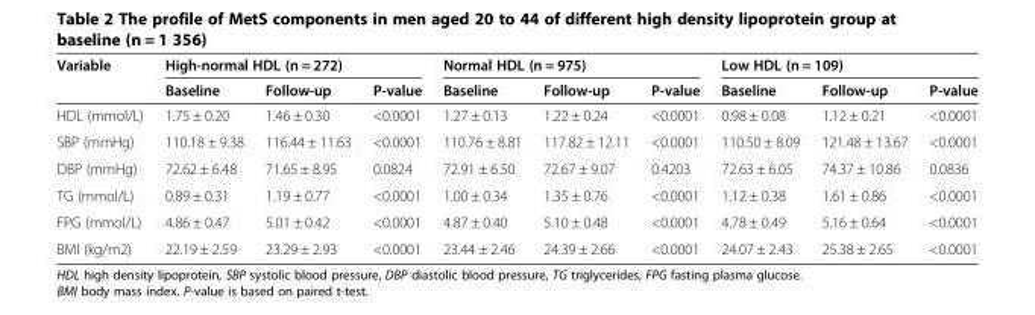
<table><thead><tr><td rowspan="2">Variable</td><td colspan="3">High-normal HDL (n = 272)</td><td colspan="3">Normal HDL (n = 975)</td><td colspan="3">Low HDL (n = 109)</td></tr><tr><td>Baseline</td><td>Follow-up</td><td>P-value</td><td>Baseline</td><td>Follow-up</td><td>P-value</td><td>Baseline</td><td>Follow-up</td><td>P-value</td></tr></thead><tbody><tr><td>HDL (mmol/L)</td><td>1.75 ± 0.20</td><td>1.46 ± 0.30</td><td>&lt;0.0001</td><td>1.27 ± 0.13</td><td>1.22 ± 0.24</td><td>&lt;0.0001</td><td>0.98 ± 0.08</td><td>1.12 ± 0.21</td><td>&lt;0.0001</td></tr><tr><td>SBP (mmHg)</td><td>110.18 ± 9.38</td><td>116.44 ± 11.63</td><td>&lt;0.0001</td><td>110.76 ± 8.81</td><td>117.82 ± 12.11</td><td>&lt;0.0001</td><td>110.50 ± 8.09</td><td>121.48 ± 13.67</td><td>&lt;0.0001</td></tr><tr><td>DBP (mmHg)</td><td>72.62 ± 6.48</td><td>71.65 ± 8.95</td><td>0.0824</td><td>72.91 ± 6.50</td><td>72.67 ± 9.07</td><td>0.4203</td><td>72.63 ± 6.05</td><td>74.37 ± 10.86</td><td>0.0836</td></tr><tr><td>TG (mmol/L)</td><td>0.89 ± 0.31</td><td>1.19 ± 0.77</td><td>&lt;0.0001</td><td>1.00 ± 0.34</td><td>1.35 ± 0.76</td><td>&lt;0.0001</td><td>1.12 ± 0.38</td><td>1.61 ± 0.86</td><td>&lt;0.0001</td></tr><tr><td>FPG (mmol/L)</td><td>4.86 ± 0.47</td><td>5.01 ± 0.42</td><td>&lt;0.0001</td><td>4.87 ± 0.40</td><td>5.10 ± 0.48</td><td>&lt;0.0001</td><td>4.78 ± 0.49</td><td>5.16 ± 0.64</td><td>&lt;0.0001</td></tr><tr><td>BMI (kg/m2)</td><td>22.19 ± 2.59</td><td>23.29 ± 2.93</td><td>&lt;0.0001</td><td>23.44 ± 2.46</td><td>24.39 ± 2.66</td><td>&lt;0.0001</td><td>24.07 ± 2.43</td><td>25.38 ± 2.65</td><td>&lt;0.0001</td></tr></tbody></table>